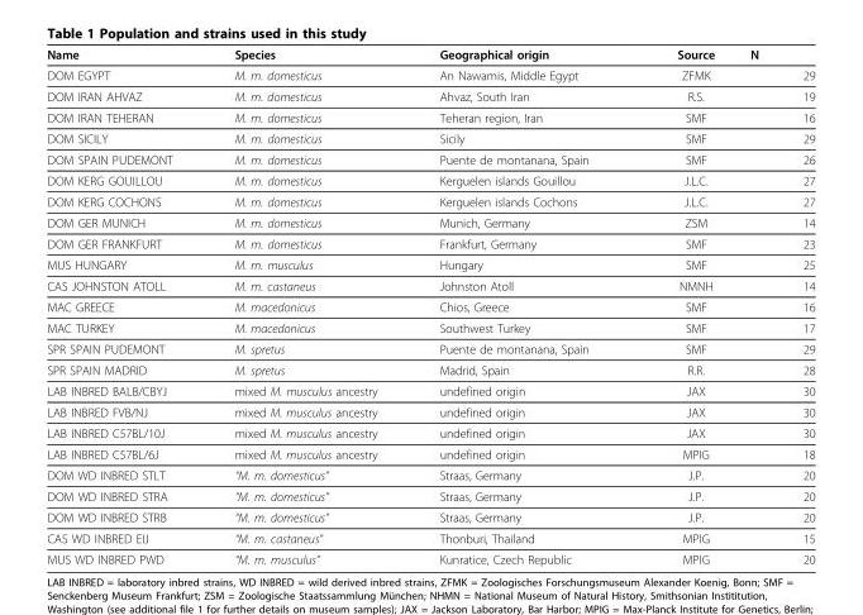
<table><thead><tr><td>Name</td><td>Species</td><td>Geographical origin</td><td>Source</td><td>N</td></tr></thead><tbody><tr><td>DOM EGYPT</td><td>M. m. domesticus</td><td>An Nawamis, Middle Egypt</td><td>ZFMK</td><td>29</td></tr><tr><td>DOM IRAN AHVAZ</td><td>M. m. domesticus</td><td>Ahvaz, South Iran</td><td>R.S.</td><td>19</td></tr><tr><td>DOM IRAN TEHERAN</td><td>M. m. domesticus</td><td>Teheran region, Iran</td><td>SMF</td><td>16</td></tr><tr><td>DOM SICILY</td><td>M. m. domesticus</td><td>Sicily</td><td>SMF</td><td>29</td></tr><tr><td>DOM SPAIN PUDEMONT</td><td>M. m. domesticus</td><td>Puente de montanana, Spain</td><td>SMF</td><td>26</td></tr><tr><td>DOM KERG GOUILLOU</td><td>M. m. domesticus</td><td>Kerguelen islands Gouillou</td><td>J.L.C.</td><td>27</td></tr><tr><td>DOM KERG COCHONS</td><td>M. m. domesticus</td><td>Kerguelen islands Cochons</td><td>J.L.C.</td><td>27</td></tr><tr><td>DOM GER MUNICH</td><td>M. m. domesticus</td><td>Munich, Germany</td><td>ZSM</td><td>14</td></tr><tr><td>DOM GER FRANKFURT</td><td>M. m. domesticus</td><td>Frankfurt, Germany</td><td>SMF</td><td>23</td></tr><tr><td>MUS HUNGARY</td><td>M. m. musculus</td><td>Hungary</td><td>SMF</td><td>25</td></tr><tr><td>CAS JOHNSTON ATOLL</td><td>M. m. castaneus</td><td>Johnston Atoll</td><td>NMNH</td><td>14</td></tr><tr><td>MAC GREECE</td><td>M. macedonicus</td><td>Chios, Greece</td><td>SMF</td><td>16</td></tr><tr><td>MAC TURKEY</td><td>M. macedonicus</td><td>Southwest Turkey</td><td>SMF</td><td>17</td></tr><tr><td>SPR SPAIN PUDEMONT</td><td>M. spretus</td><td>Puente de montanana, Spain</td><td>SMF</td><td>29</td></tr><tr><td>SPR SPAIN MADRID</td><td>M. spretus</td><td>Madrid, Spain</td><td>R.R.</td><td>28</td></tr><tr><td>LAB INBRED BALB/CBYJ</td><td>mixed M. musculus ancestry</td><td>undefined origin</td><td>JAX</td><td>30</td></tr><tr><td>LAB INBRED FVB/NJ</td><td>mixed M. musculus ancestry</td><td>undefined origin</td><td>JAX</td><td>30</td></tr><tr><td>LAB INBRED C57BL/10J</td><td>mixed M. musculus ancestry</td><td>undefined origin</td><td>JAX</td><td>30</td></tr><tr><td>LAB INBRED C57BL/6J</td><td>mixed M. musculus ancestry</td><td>undefined origin</td><td>MPIG</td><td>18</td></tr><tr><td>DOM WD INBRED STLT</td><td>“M. m. domesticus”</td><td>Straas, Germany</td><td>J.P.</td><td>20</td></tr><tr><td>DOM WD INBRED STRA</td><td>“M. m. domesticus”</td><td>Straas, Germany</td><td>J.P.</td><td>20</td></tr><tr><td>DOM WD INBRED STRB</td><td>“M. m. domesticus”</td><td>Straas, Germany</td><td>J.P.</td><td>20</td></tr><tr><td>CAS WD INBRED EIJ</td><td>“M. m. castaneus”</td><td>Thonburi, Thailand</td><td>MPIG</td><td>15</td></tr><tr><td>MUS WD INBRED PWD</td><td>“M. m. musculus”</td><td>Kunratice, Czech Republic</td><td>MPIG</td><td>20</td></tr></tbody></table>